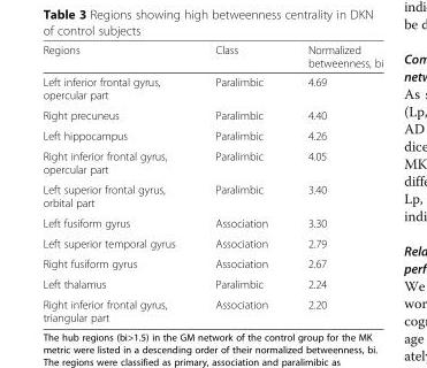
<table><thead><tr><td>Regions</td><td>Class</td><td>Normalized betweenness, bi</td></tr></thead><tbody><tr><td>Left inferior frontal gyrus, opercular part</td><td>Paralimbic</td><td>4.69</td></tr><tr><td>Right precuneus</td><td>Paralimbic</td><td>4.40</td></tr><tr><td>Left hippocampus</td><td>Paralimbic</td><td>4.26</td></tr><tr><td>Right inferior frontal gyrus, opercular part</td><td>Paralimbic</td><td>4.05</td></tr><tr><td>Left superior frontal gyrus, orbital part</td><td>Paralimbic</td><td>3.40</td></tr><tr><td>Left fusiform gyrus</td><td>Association</td><td>3.30</td></tr><tr><td>Left superior temporal gyrus</td><td>Association</td><td>2.79</td></tr><tr><td>Right fusiform gyrus</td><td>Association</td><td>2.67</td></tr><tr><td>Left thalamus</td><td>Paralimbic</td><td>2.24</td></tr><tr><td>Right inferior frontal gyrus, triangular part</td><td>Association</td><td>2.20</td></tr></tbody></table>